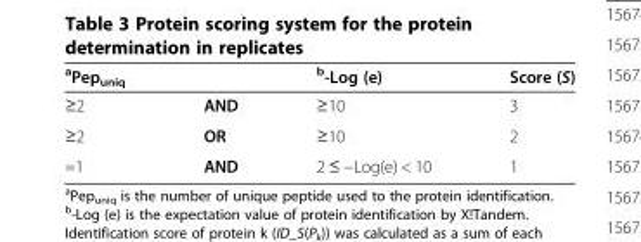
<table><thead><tr><td><sup>a</sup>Pep<sub>uniq</sub></td><td></td><td><sup>b</sup>-Log (e)</td><td>Score (S)</td></tr></thead><tbody><tr><td>≥2</td><td>AND</td><td>≥10</td><td>3</td></tr><tr><td>≥2</td><td>OR</td><td>≥10</td><td>2</td></tr><tr><td>=1</td><td>AND</td><td>2 ≤ −Log(e) &lt; 10</td><td>1</td></tr></tbody></table>